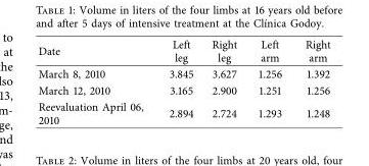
<table><thead><tr><td>Date</td><td>Left leg</td><td>Right leg</td><td>Left arm</td><td>Right arm</td></tr></thead><tbody><tr><td>March 8, 2010</td><td>3.845</td><td>3.627</td><td>1.256</td><td>1.392</td></tr><tr><td>March 12, 2010</td><td>3.165</td><td>2.900</td><td>1.251</td><td>1.256</td></tr><tr><td>Reevaluation April 06, 2010</td><td>2.894</td><td>2.724</td><td>1.293</td><td>1.248</td></tr></tbody></table>